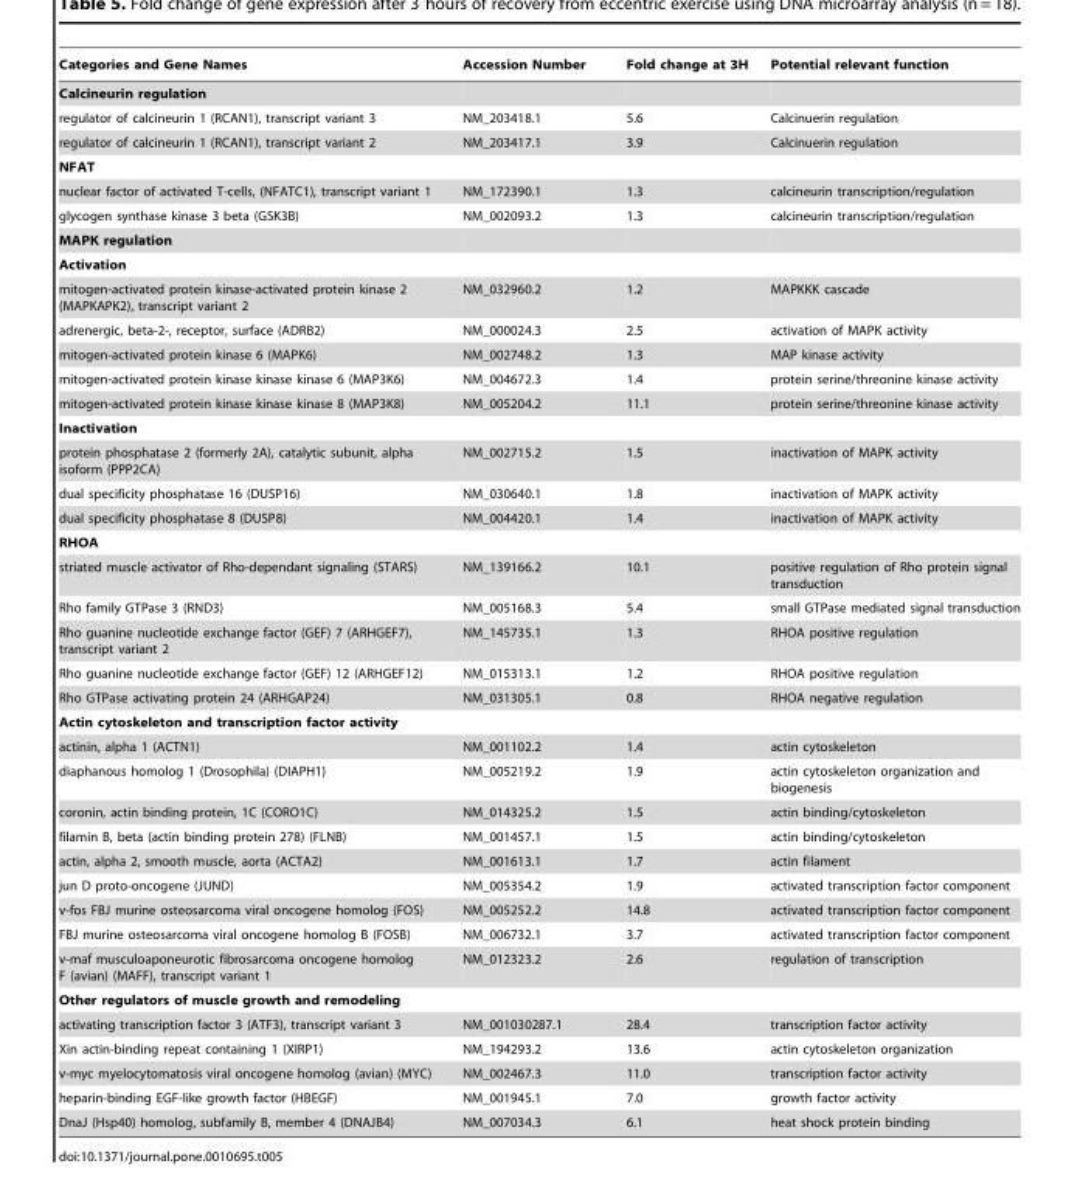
<table><thead><tr><td>Categories and Gene Names</td><td>Accession Number</td><td>Fold change at 3H</td><td>Potential relevant function</td></tr></thead><tbody><tr><td colspan="4">Calcineurin regulation</td></tr><tr><td>regulator of calcineurin 1 (RCAN1), transcript variant 3</td><td>NM_203418.1</td><td>5.6</td><td>Calcinuerin regulation</td></tr><tr><td>regulator of calcineurin 1 (RCAN1), transcript variant 2</td><td>NM_203417.1</td><td>3.9</td><td>Calcinuerin regulation</td></tr><tr><td colspan="4">NFAT</td></tr><tr><td>nuclear factor of activated T-cells, (NFATC1), transcript variant 1</td><td>NM_172390.1</td><td>1.3</td><td>calcineurin transcription/regulation</td></tr><tr><td>glycogen synthase kinase 3 beta (GSK3B)</td><td>NM_002093.2</td><td>1.3</td><td>calcineurin transcription/regulation</td></tr><tr><td colspan="4">MAPK regulation</td></tr><tr><td colspan="4">Activation</td></tr><tr><td>mitogen-activated protein kinase-activated protein kinase 2 (MAPKAPK2), transcript variant 2</td><td>NM_032960.2</td><td>1.2</td><td>MAPKKK cascade</td></tr><tr><td>adrenergic, beta-2-, receptor, surface (ADRB2)</td><td>NM_000024.3</td><td>2.5</td><td>activation of MAPK activity</td></tr><tr><td>mitogen-activated protein kinase 6 (MAPK6)</td><td>NM_002748.2</td><td>1.3</td><td>MAP kinase activity</td></tr><tr><td>mitogen-activated protein kinase kinase kinase 6 (MAP3K6)</td><td>NM_004672.3</td><td>1.4</td><td>protein serine/threonine kinase activity</td></tr><tr><td>mitogen-activated protein kinase kinase kinase 8 (MAP3K8)</td><td>NM_005204.2</td><td>11.1</td><td>protein serine/threonine kinase activity</td></tr><tr><td colspan="4">Inactivation</td></tr><tr><td>protein phosphatase 2 (formerly 2A), catalytic subunit, alpha isoform (PPP2CA)</td><td>NM_002715.2</td><td>1.5</td><td>inactivation of MAPK activity</td></tr><tr><td>dual specificity phosphatase 16 (DUSP16)</td><td>NM_030640.1</td><td>1.8</td><td>inactivation of MAPK activity</td></tr><tr><td>dual specificity phosphatase 8 (DUSP8)</td><td>NM_004420.1</td><td>1.4</td><td>inactivation of MAPK activity</td></tr><tr><td colspan="4">RHOA</td></tr><tr><td>striated muscle activator of Rho-dependant signaling (STARS)</td><td>NM_139166.2</td><td>10.1</td><td>positive regulation of Rho protein signal transduction</td></tr><tr><td>Rho family GTPase 3 (RND3)</td><td>NM_005168.3</td><td>5.4</td><td>small GTPase mediated signal transduction</td></tr><tr><td>Rho guanine nucleotide exchange factor (GEF) 7 (ARHGEF7), transcript variant 2</td><td>NM_145735.1</td><td>1.3</td><td>RHOA positive regulation</td></tr><tr><td>Rho guanine nucleotide exchange factor (GEF) 12 (ARHGEF12)</td><td>NM_015313.1</td><td>1.2</td><td>RHOA positive regulation</td></tr><tr><td>Rho GTPase activating protein 24 (ARHGAP24)</td><td>NM_031305.1</td><td>0.8</td><td>RHOA negative regulation</td></tr><tr><td colspan="4">Actin cytoskeleton and transcription factor activity</td></tr><tr><td>actinin, alpha 1 (ACTN1)</td><td>NM_001102.2</td><td>1.4</td><td>actin cytoskeleton</td></tr><tr><td>diaphanous homolog 1 (Drosophila) (DIAPH1)</td><td>NM_005219.2</td><td>1.9</td><td>actin cytoskeleton organization and biogenesis</td></tr><tr><td>coronin, actin binding protein, 1C (CORO1C)</td><td>NM_014325.2</td><td>1.5</td><td>actin binding/cytoskeleton</td></tr><tr><td>filamin B, beta (actin binding protein 278) (FLNB)</td><td>NM_001457.1</td><td>1.5</td><td>actin binding/cytoskeleton</td></tr><tr><td>actin, alpha 2, smooth muscle, aorta (ACTA2)</td><td>NM_001613.1</td><td>1.7</td><td>actin filament</td></tr><tr><td>jun D proto-oncogene (JUND)</td><td>NM_005354.2</td><td>1.9</td><td>activated transcription factor component</td></tr><tr><td>v-fos FBJ murine osteosarcoma viral oncogene homolog (FOS)</td><td>NM_005252.2</td><td>14.8</td><td>activated transcription factor component</td></tr><tr><td>FBJ murine osteosarcoma viral oncogene homolog B (FOSB)</td><td>NM_006732.1</td><td>3.7</td><td>activated transcription factor component</td></tr><tr><td>v-maf musculoaponeurotic fibrosarcoma oncogene homolog F (avian) (MAFF), transcript variant 1</td><td>NM_012323.2</td><td>2.6</td><td>regulation of transcription</td></tr><tr><td colspan="4">Other regulators of muscle growth and remodeling</td></tr><tr><td>activating transcription factor 3 (ATF3), transcript variant 3</td><td>NM_001030287.1</td><td>28.4</td><td>transcription factor activity</td></tr><tr><td>Xin actin-binding repeat containing 1 (XIRP1)</td><td>NM_194293.2</td><td>13.6</td><td>actin cytoskeleton organization</td></tr><tr><td>v-myc myelocytomatosis viral oncogene homolog (avian) (MYC)</td><td>NM_002467.3</td><td>11.0</td><td>transcription factor activity</td></tr><tr><td>heparin-binding EGF-like growth factor (HBEGF)</td><td>NM_001945.1</td><td>7.0</td><td>growth factor activity</td></tr><tr><td>DnaJ (Hsp40) homolog, subfamily B, member 4 (DNAJB4)</td><td>NM_007034.3</td><td>6.1</td><td>heat shock protein binding</td></tr></tbody></table>